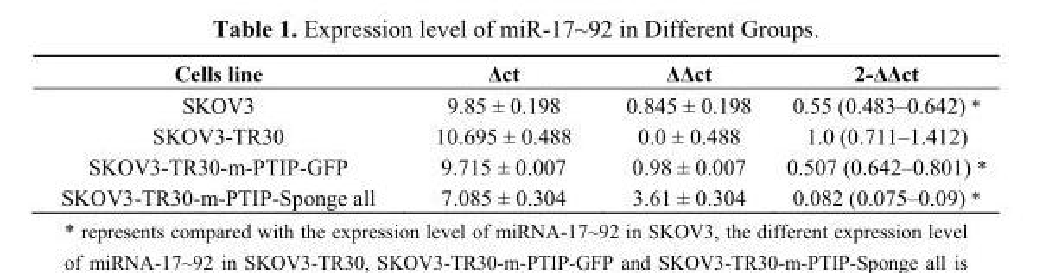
<table><thead><tr><td>Cells line</td><td>Δct</td><td>ΔΔct</td><td>2-ΔΔct</td></tr></thead><tbody><tr><td>SKOV3</td><td>9.85 ± 0.198</td><td>0.845 ± 0.198</td><td>0.55 (0.483–0.642) *</td></tr><tr><td>SKOV3-TR30</td><td>10.695 ± 0.488</td><td>0.0 ± 0.488</td><td>1.0 (0.711–1.412)</td></tr><tr><td>SKOV3-TR30-m-PTIP-GFP</td><td>9.715 ± 0.007</td><td>0.98 ± 0.007</td><td>0.507 (0.642–0.801) *</td></tr><tr><td>SKOV3-TR30-m-PTIP-Sponge all</td><td>7.085 ± 0.304</td><td>3.61 ± 0.304</td><td>0.082 (0.075–0.09) *</td></tr></tbody></table>